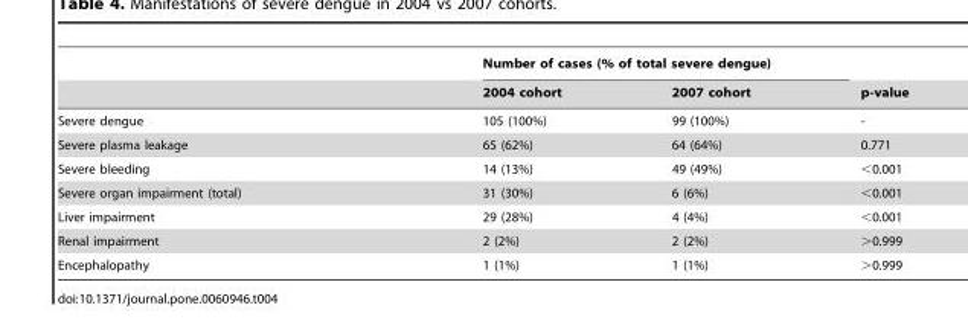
<table><thead><tr><td rowspan="2"></td><td colspan="2">Number of cases (% of total severe dengue)</td><td rowspan="2">p-value</td></tr><tr><td>2004 cohort</td><td>2007 cohort</td></tr></thead><tbody><tr><td>Severe dengue</td><td>105 (100%)</td><td>99 (100%)</td><td>-</td></tr><tr><td>Severe plasma leakage</td><td>65 (62%)</td><td>64 (64%)</td><td>0.771</td></tr><tr><td>Severe bleeding</td><td>14 (13%)</td><td>49 (49%)</td><td>&lt;0.001</td></tr><tr><td>Severe organ impairment (total)</td><td>31 (30%)</td><td>6 (6%)</td><td>&lt;0.001</td></tr><tr><td>Liver impairment</td><td>29 (28%)</td><td>4 (4%)</td><td>&lt;0.001</td></tr><tr><td>Renal impairment</td><td>2 (2%)</td><td>2 (2%)</td><td>&gt;0.999</td></tr><tr><td>Encephalopathy</td><td>1 (1%)</td><td>1 (1%)</td><td>&gt;0.999</td></tr></tbody></table>